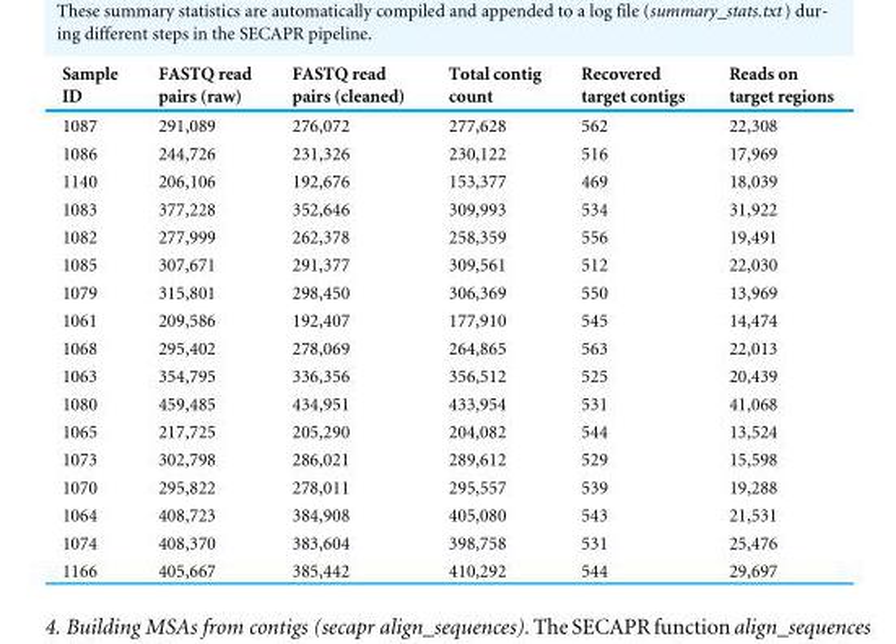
<table><thead><tr><td>Sample ID</td><td>FASTQ read pairs (raw)</td><td>FASTQ read pairs (cleaned)</td><td>Total contig count</td><td>Recovered target contigs</td><td>Reads on target regions</td></tr></thead><tbody><tr><td>1087</td><td>291,089</td><td>276,072</td><td>277,628</td><td>562</td><td>22,308</td></tr><tr><td>1086</td><td>244,726</td><td>231,326</td><td>230,122</td><td>516</td><td>17,969</td></tr><tr><td>1140</td><td>206,106</td><td>192,676</td><td>153,377</td><td>469</td><td>18,039</td></tr><tr><td>1083</td><td>377,228</td><td>352,646</td><td>309,993</td><td>534</td><td>31,922</td></tr><tr><td>1082</td><td>277,999</td><td>262,378</td><td>258,359</td><td>556</td><td>19,491</td></tr><tr><td>1085</td><td>307,671</td><td>291,377</td><td>309,561</td><td>512</td><td>22,030</td></tr><tr><td>1079</td><td>315,801</td><td>298,450</td><td>306,369</td><td>550</td><td>13,969</td></tr><tr><td>1061</td><td>209,586</td><td>192,407</td><td>177,910</td><td>545</td><td>14,474</td></tr><tr><td>1068</td><td>295,402</td><td>278,069</td><td>264,865</td><td>563</td><td>22,013</td></tr><tr><td>1063</td><td>354,795</td><td>336,356</td><td>356,512</td><td>525</td><td>20,439</td></tr><tr><td>1080</td><td>459,485</td><td>434,951</td><td>433,954</td><td>531</td><td>41,068</td></tr><tr><td>1065</td><td>217,725</td><td>205,290</td><td>204,082</td><td>544</td><td>13,524</td></tr><tr><td>1073</td><td>302,798</td><td>286,021</td><td>289,612</td><td>529</td><td>15,598</td></tr><tr><td>1070</td><td>295,822</td><td>278,011</td><td>295,557</td><td>539</td><td>19,288</td></tr><tr><td>1064</td><td>408,723</td><td>384,908</td><td>405,080</td><td>543</td><td>21,531</td></tr><tr><td>1074</td><td>408,370</td><td>383,604</td><td>398,758</td><td>531</td><td>25,476</td></tr><tr><td>1166</td><td>405,667</td><td>385,442</td><td>410,292</td><td>544</td><td>29,697</td></tr></tbody></table>